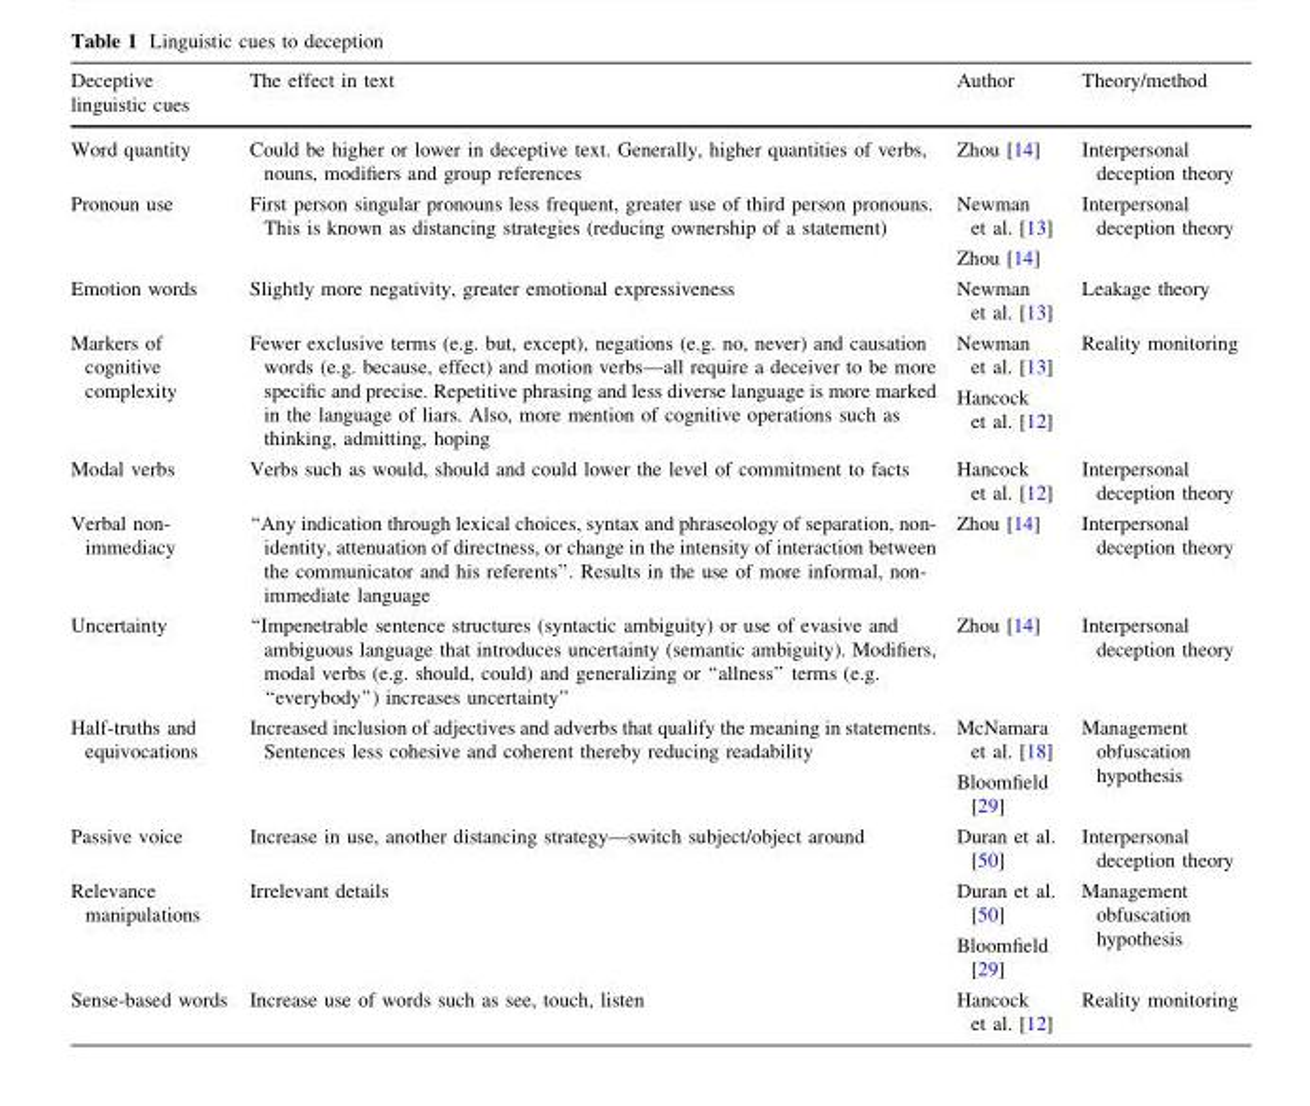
<table><thead><tr><td>Deceptive linguistic cues</td><td>The effect in text</td><td>Author</td><td>Theory/method</td></tr></thead><tbody><tr><td>Word quantity</td><td>Could be higher or lower in deceptive text. Generally, higher quantities of verbs, nouns, modifiers and group references</td><td>Zhou [14]</td><td>Interpersonal deception theory</td></tr><tr><td>Pronoun use</td><td>First person singular pronouns less frequent, greater use of third person pronouns. This is known as distancing strategies (reducing ownership of a statement)</td><td>Newman et al. [13] Zhou [14]</td><td>Interpersonal deception theory</td></tr><tr><td>Emotion words</td><td>Slightly more negativity, greater emotional expressiveness</td><td>Newman et al. [13]</td><td>Leakage theory</td></tr><tr><td>Markers of cognitive complexity</td><td>Fewer exclusive terms (e.g. but, except), negations (e.g. no, never) and causation words (e.g. because, effect) and motion verbs—all require a deceiver to be more specific and precise. Repetitive phrasing and less diverse language is more marked in the language of liars. Also, more mention of cognitive operations such as thinking, admitting, hoping</td><td>Newman et al. [13] Hancock et al. [12]</td><td>Reality monitoring</td></tr><tr><td>Modal verbs</td><td>Verbs such as would, should and could lower the level of commitment to facts</td><td>Hancock et al. [12]</td><td>Interpersonal deception theory</td></tr><tr><td>Verbal non- immediacy</td><td>‘‘Any indication through lexical choices, syntax and phraseology of separation, non- identity, attenuation of directness, or change in the intensity of interaction between the communicator and his referents’’. Results in the use of more informal, non- immediate language</td><td>Zhou [14]</td><td>Interpersonal deception theory</td></tr><tr><td>Uncertainty</td><td>‘‘Impenetrable sentence structures (syntactic ambiguity) or use of evasive and ambiguous language that introduces uncertainty (semantic ambiguity). Modifiers, modal verbs (e.g. should, could) and generalizing or ‘‘allness’’ terms (e.g. ‘‘everybody’’) increases uncertainty’’</td><td>Zhou [14]</td><td>Interpersonal deception theory</td></tr><tr><td>Half-truths and equivocations</td><td>Increased inclusion of adjectives and adverbs that qualify the meaning in statements. Sentences less cohesive and coherent thereby reducing readability</td><td>McNamara et al. [18] Bloomfield [29]</td><td>Management obfuscation hypothesis</td></tr><tr><td>Passive voice</td><td>Increase in use, another distancing strategy—switch subject/object around</td><td>Duran et al. [50]</td><td>Interpersonal deception theory</td></tr><tr><td>Relevance manipulations</td><td>Irrelevant details</td><td>Duran et al. [50] Bloomfield [29]</td><td>Management obfuscation hypothesis</td></tr><tr><td>Sense-based words</td><td>Increase use of words such as see, touch, listen</td><td>Hancock et al. [12]</td><td>Reality monitoring</td></tr></tbody></table>